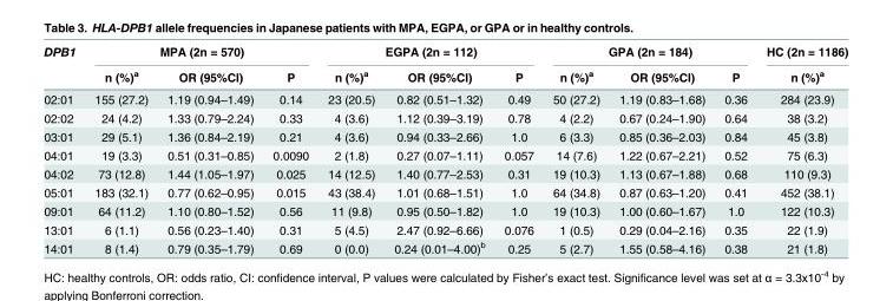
<table><thead><tr><td rowspan="2">DPB1</td><td colspan="3">MPA (2n = 570)</td><td colspan="3">EGPA (2n = 112)</td><td colspan="3">GPA (2n = 184)</td><td rowspan="2">HC (2n = 1186) n (%)<sup>a</sup></td></tr><tr><td>n (%)<sup>a</sup></td><td>OR (95%CI)</td><td>P</td><td>n (%)<sup>a</sup></td><td>OR (95%CI)</td><td>P</td><td>n (%)<sup>a</sup></td><td>OR (95%CI)</td><td>P</td></tr></thead><tbody><tr><td>02:01</td><td>155 (27.2)</td><td>1.19 (0.94–1.49)</td><td>0.14</td><td>23 (20.5)</td><td>0.82 (0.51–1.32)</td><td>0.49</td><td>50 (27.2)</td><td>1.19 (0.83–1.68)</td><td>0.36</td><td>284 (23.9)</td></tr><tr><td>02:02</td><td>24 (4.2)</td><td>1.33 (0.79–2.24)</td><td>0.33</td><td>4 (3.6)</td><td>1.12 (0.39–3.19)</td><td>0.78</td><td>4 (2.2)</td><td>0.67 (0.24–1.90)</td><td>0.64</td><td>38 (3.2)</td></tr><tr><td>03:01</td><td>29 (5.1)</td><td>1.36 (0.84–2.19)</td><td>0.21</td><td>4 (3.6)</td><td>0.94 (0.33–2.66)</td><td>1.0</td><td>6 (3.3)</td><td>0.85 (0.36–2.03)</td><td>0.84</td><td>45 (3.8)</td></tr><tr><td>04:01</td><td>19 (3.3)</td><td>0.51 (0.31–0.85)</td><td>0.0090</td><td>2 (1.8)</td><td>0.27 (0.07–1.11)</td><td>0.057</td><td>14 (7.6)</td><td>1.22 (0.67–2.21)</td><td>0.52</td><td>75 (6.3)</td></tr><tr><td>04:02</td><td>73 (12.8)</td><td>1.44 (1.05–1.97)</td><td>0.025</td><td>14 (12.5)</td><td>1.40 (0.77–2.53)</td><td>0.31</td><td>19 (10.3)</td><td>1.13 (0.67–1.88)</td><td>0.68</td><td>110 (9.3)</td></tr><tr><td>05:01</td><td>183 (32.1)</td><td>0.77 (0.62–0.95)</td><td>0.015</td><td>43 (38.4)</td><td>1.01 (0.68–1.51)</td><td>1.0</td><td>64 (34.8)</td><td>0.87 (0.63–1.20)</td><td>0.41</td><td>452 (38.1)</td></tr><tr><td>09:01</td><td>64 (11.2)</td><td>1.10 (0.80–1.52)</td><td>0.56</td><td>11 (9.8)</td><td>0.95 (0.50–1.82)</td><td>1.0</td><td>19 (10.3)</td><td>1.00 (0.60–1.67)</td><td>1.0</td><td>122 (10.3)</td></tr><tr><td>13:01</td><td>6 (1.1)</td><td>0.56 (0.23–1.40)</td><td>0.31</td><td>5 (4.5)</td><td>2.47 (0.92–6.66)</td><td>0.076</td><td>1 (0.5)</td><td>0.29 (0.04–2.16)</td><td>0.35</td><td>22 (1.9)</td></tr><tr><td>14:01</td><td>8 (1.4)</td><td>0.79 (0.35–1.79)</td><td>0.69</td><td>0 (0.0)</td><td>0.24 (0.01–4.00)<sup>b</sup></td><td>0.25</td><td>5 (2.7)</td><td>1.55 (0.58–4.16)</td><td>0.38</td><td>21 (1.8)</td></tr></tbody></table>